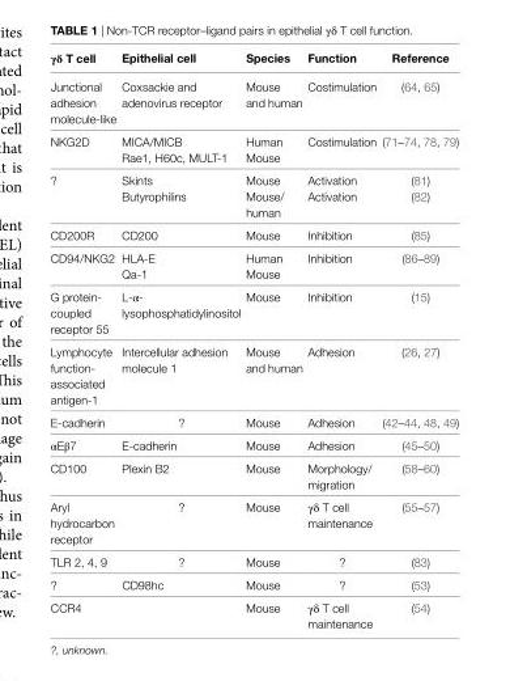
<table><thead><tr><td>γδ T cell</td><td>epithelial cell</td><td>Species</td><td>Function</td><td>Reference</td></tr></thead><tbody><tr><td>Junctional adhesion molecule-like</td><td>Coxsackie and adenovirus receptor</td><td>Mouse and human</td><td>Costimulation</td><td>(64, 65)</td></tr><tr><td rowspan="2">NKG2D</td><td>MICA/MICB</td><td>Human</td><td rowspan="2">Costimulation</td><td rowspan="2">(71–74, 78, 79)</td></tr><tr><td>Rae1, H60c, MULT-1</td><td>Mouse</td></tr><tr><td rowspan="2">?</td><td>Skints</td><td>Mouse</td><td>Activation</td><td>(81)</td></tr><tr><td>Butyrophilins</td><td>Mouse/ human</td><td>Activation</td><td>(82)</td></tr><tr><td>CD200R</td><td>CD200</td><td>Mouse</td><td>Inhibition</td><td>(85)</td></tr><tr><td rowspan="2">CD94/NKG2</td><td>HLA-E</td><td>Human</td><td rowspan="2">Inhibition</td><td rowspan="2">(86–89)</td></tr><tr><td>Qa-1</td><td>Mouse</td></tr><tr><td>G protein- coupled receptor 55</td><td>L-α- lysophosphatidylinositol</td><td>Mouse</td><td>Inhibition</td><td>(15)</td></tr><tr><td>Lymphocyte function- associated antigen-1</td><td>Intercellular adhesion molecule 1</td><td>Mouse and human</td><td>Adhesion</td><td>(26, 27)</td></tr><tr><td>E-cadherin</td><td>?</td><td>Mouse</td><td>Adhesion</td><td>(42–44, 48, 49)</td></tr><tr><td>αEβ7</td><td>E-cadherin</td><td>Mouse</td><td>Adhesion</td><td>(45–50)</td></tr><tr><td>CD100</td><td>Plexin B2</td><td>Mouse</td><td>Morphology/ migration</td><td>(58–60)</td></tr><tr><td>Aryl hydrocarbon receptor</td><td>?</td><td>Mouse</td><td>γδ T cell maintenance</td><td>(55–57)</td></tr><tr><td>TLR 2, 4, 9</td><td>?</td><td>Mouse</td><td>?</td><td>(83)</td></tr><tr><td>?</td><td>CD98hc</td><td>Mouse</td><td>?</td><td>(53)</td></tr><tr><td>CCR4</td><td></td><td>Mouse</td><td>γδ T cell maintenance</td><td>(54)</td></tr></tbody></table>